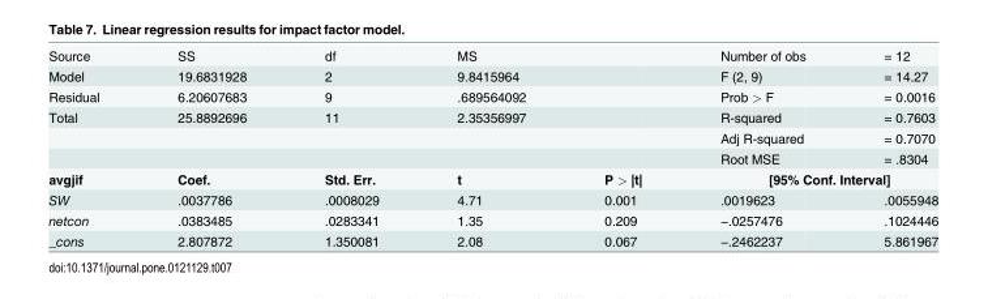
<table><tbody><tr><td>Source</td><td>SS</td><td>df</td><td>MS</td><td></td><td>Number of obs</td><td>= 12</td></tr><tr><td>Model</td><td>19.6831928</td><td>2</td><td>9.8415964</td><td></td><td>F (2, 9)</td><td>= 14.27</td></tr><tr><td>Residual</td><td>6.20607683</td><td>9</td><td>.689564092</td><td></td><td>Prob &gt; F</td><td>= 0.0016</td></tr><tr><td rowspan="3">Total</td><td>25.8892696</td><td>11</td><td>2.35356997</td><td></td><td>R-squared</td><td>= 0.7603</td></tr><tr><td></td><td></td><td></td><td></td><td>Adj R-squared</td><td>= 0.7070</td></tr><tr><td></td><td></td><td></td><td></td><td>Root MSE</td><td>= .8304</td></tr><tr><td>avgjif</td><td>Coef.</td><td>Std. Err.</td><td>t</td><td>P &gt; |t|</td><td colspan="2">[95% Conf. Interval]</td></tr><tr><td>SW</td><td>.0037786</td><td>.0008029</td><td>4.71</td><td>0.001</td><td>.0019623</td><td>.0055948</td></tr><tr><td>netcon</td><td>.0383485</td><td>.0283341</td><td>1.35</td><td>0.209</td><td>−.0257476</td><td>.1024446</td></tr><tr><td>_cons</td><td>2.807872</td><td>1.350081</td><td>2.08</td><td>0.067</td><td>−.2462237</td><td>5.861967</td></tr></tbody></table>